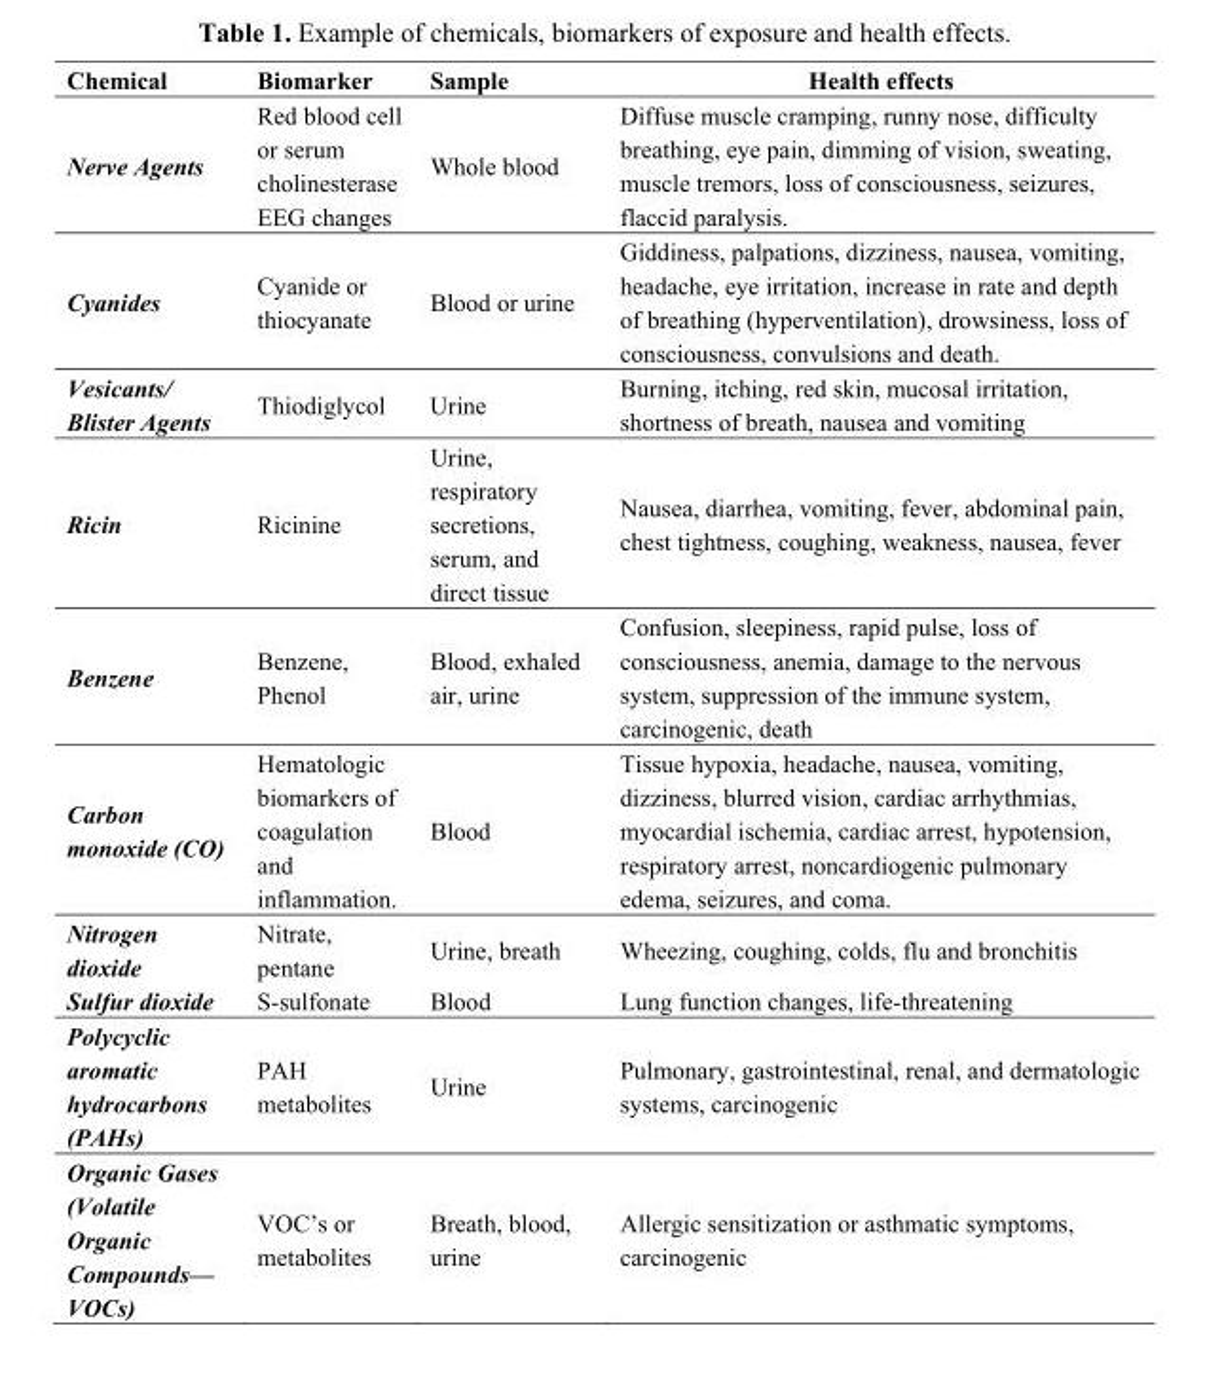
<table><thead><tr><td>Chemical</td><td>Biomarker</td><td>Sample</td><td>Health effects</td></tr></thead><tbody><tr><td>Nerve Agents</td><td>Red blood cell or serum cholinesterase EEG changes</td><td>Whole blood</td><td>Diffuse muscle cramping, runny nose, difficulty breathing, eye pain, dimming of vision, sweating, muscle tremors, loss of consciousness, seizures, flaccid paralysis.</td></tr><tr><td>Cyanides</td><td>Cyanide or thiocyanate</td><td>Blood or urine</td><td>Giddiness, palpations, dizziness, nausea, vomiting, headache, eye irritation, increase in rate and depth of breathing (hyperventilation), drowsiness, loss of consciousness, convulsions and death.</td></tr><tr><td>Vesicants/ Blister Agents</td><td>Thiodiglycol</td><td>Urine</td><td>Burning, itching, red skin, mucosal irritation, shortness of breath, nausea and vomiting</td></tr><tr><td>Ricin</td><td>Ricinine</td><td>Urine, respiratory secretions, serum, and direct tissue</td><td>Nausea, diarrhea, vomiting, fever, abdominal pain, chest tightness, coughing, weakness, nausea, fever</td></tr><tr><td>Benzene</td><td>Benzene, Phenol</td><td>Blood, exhaled air, urine</td><td>Confusion, sleepiness, rapid pulse, loss of consciousness, anemia, damage to the nervous system, suppression of the immune system, carcinogenic, death</td></tr><tr><td>Carbon monoxide (CO)</td><td>Hematologic biomarkers of coagulation and inflammation.</td><td>Blood</td><td>Tissue hypoxia, headache, nausea, vomiting, dizziness, blurred vision, cardiac arrhythmias, myocardial ischemia, cardiac arrest, hypotension, respiratory arrest, noncardiogenic pulmonary edema, seizures, and coma.</td></tr><tr><td>Nitrogen dioxide</td><td>Nitrate, pentane</td><td>Urine, breath</td><td>Wheezing, coughing, colds, flu and bronchitis</td></tr><tr><td>Sulfur dioxide</td><td>S-sulfonate</td><td>Blood</td><td>Lung function changes, life-threatening</td></tr><tr><td>Polycyclic aromatic hydrocarbons (PAHs)</td><td>PAH metabolites</td><td>Urine</td><td>Pulmonary, gastrointestinal, renal, and dermatologic systems, carcinogenic</td></tr><tr><td>Organic Gases (Volatile Organic Compounds— VOCs)</td><td>VOC’s or metabolites</td><td>Breath, blood, urine</td><td>Allergic sensitization or asthmatic symptoms, carcinogenic</td></tr></tbody></table>